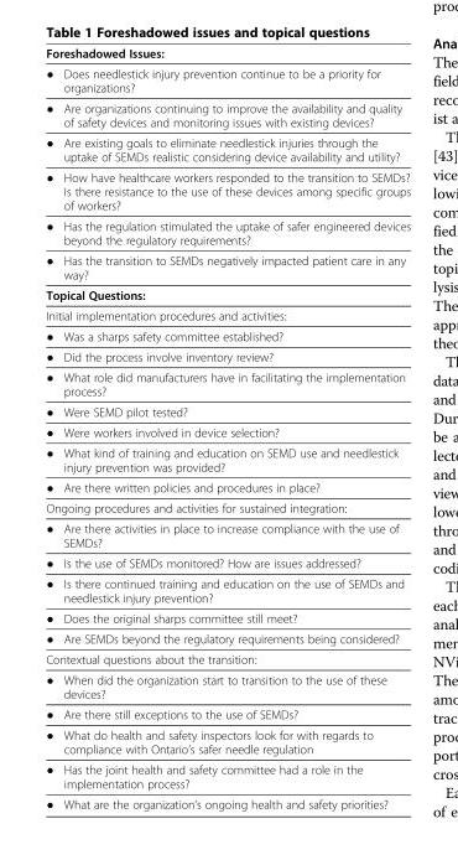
<table><thead><tr><td colspan="2">Foreshadowed Issues:</td></tr><tr><td>●</td><td>Does needlestick injury prevention continue to be a priority for organizations?</td></tr></thead><tbody><tr><td>●</td><td>Are organizations continuing to improve the availability and quality of safety devices and monitoring issues with existing devices?</td></tr><tr><td>●</td><td>Are existing goals to eliminate needlestick injuries through the uptake of SEMDs realistic considering device availability and utility?</td></tr><tr><td>●</td><td>How have healthcare workers responded to the transition to SEMDs? Is there resistance to the use of these devices among specific groups of workers?</td></tr><tr><td>●</td><td>Has the regulation stimulated the uptake of safer engineered devices beyond the regulatory requirements?</td></tr><tr><td>●</td><td>Has the transition to SEMDs negatively impacted patient care in any way?</td></tr><tr><td colspan="2">Topical Questions:</td></tr><tr><td colspan="2">Initial implementation procedures and activities:</td></tr><tr><td>●</td><td>Was a sharps safety committee established?</td></tr><tr><td>●</td><td>Did the process involve inventory review?</td></tr><tr><td>●</td><td>What role did manufacturers have in facilitating the implementation process?</td></tr><tr><td>●</td><td>Were SEMD pilot tested?</td></tr><tr><td>●</td><td>Were workers involved in device selection?</td></tr><tr><td>●</td><td>What kind of training and education on SEMD use and needlestick injury prevention was provided?</td></tr><tr><td>●</td><td>Are there written policies and procedures in place?</td></tr><tr><td colspan="2">Ongoing procedures and activities for sustained integration:</td></tr><tr><td>●</td><td>Are there activities in place to increase compliance with the use of SEMDs?</td></tr><tr><td>●</td><td>Is the use of SEMDs monitored? How are issues addressed?</td></tr><tr><td>●</td><td>Is there continued training and education on the use of SEMDs and needlestick injury prevention?</td></tr><tr><td>●</td><td>Does the original sharps committee still meet?</td></tr><tr><td>●</td><td>Are SEMDs beyond the regulatory requirements being considered?</td></tr><tr><td colspan="2">Contextual questions about the transition:</td></tr><tr><td>●</td><td>When did the organization start to transition to the use of these devices?</td></tr><tr><td>●</td><td>Are there still exceptions to the use of SEMDs?</td></tr><tr><td>●</td><td>What do health and safety inspectors look for with regards to compliance with Ontario’s safer needle regulation</td></tr><tr><td>●</td><td>Has the joint health and safety committee had a role in the implementation process?</td></tr><tr><td>●</td><td>What are the organization’s ongoing health and safety priorities?</td></tr></tbody></table>